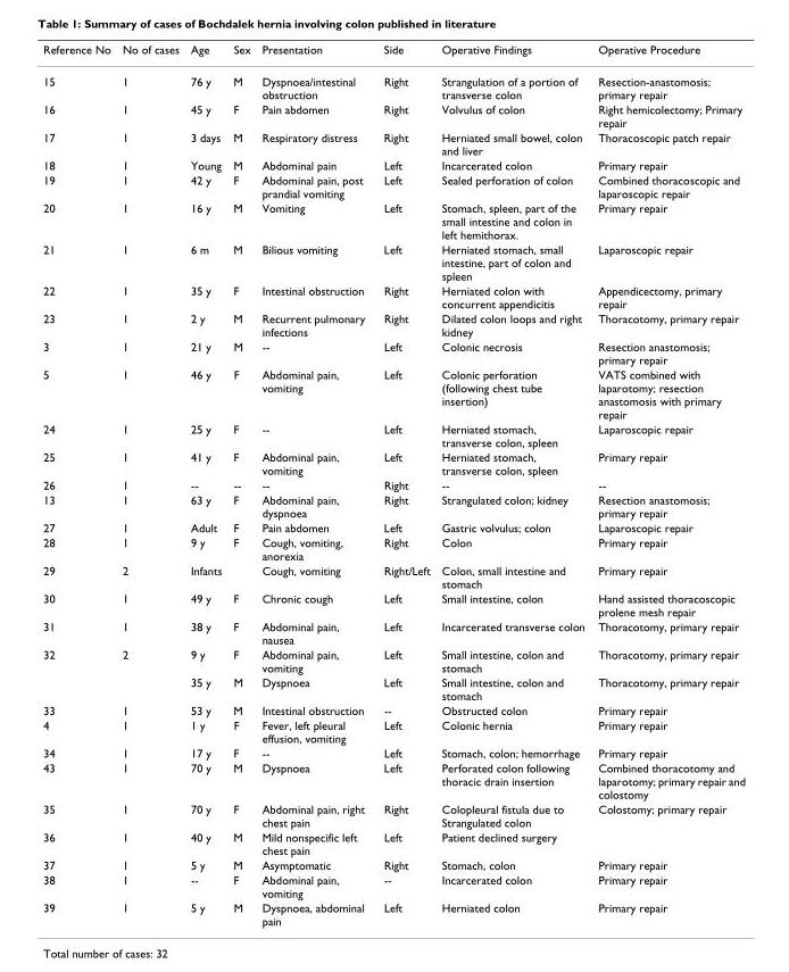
<table><thead><tr><td>Reference No</td><td>No of cases</td><td>Age</td><td>Sex</td><td>Presentation</td><td>Side</td><td>Operative Findings</td><td>Operative Procedure</td></tr></thead><tbody><tr><td>15</td><td>1</td><td>76 y</td><td>M</td><td>Dyspnoea/intestinal obstruction</td><td>Right</td><td>Strangulation of a portion of transverse colon</td><td>Resection-anastomosis; primary repair</td></tr><tr><td>16</td><td>1</td><td>45 y</td><td>F</td><td>Pain abdomen</td><td>Right</td><td>Volvulus of colon</td><td>Right hemicolectomy; Primary repair</td></tr><tr><td>17</td><td>1</td><td>3 days</td><td>M</td><td>Respiratory distress</td><td>Right</td><td>Herniated small bowel, colon and liver</td><td>Thoracoscopic patch repair</td></tr><tr><td>18</td><td>1</td><td>Young</td><td>M</td><td>Abdominal pain</td><td>Left</td><td>Incarcerated colon</td><td>Primary repair</td></tr><tr><td>19</td><td>1</td><td>42 y</td><td>F</td><td>Abdominal pain, post prandial vomiting</td><td>Left</td><td>Sealed perforation of colon</td><td>Combined thoracoscopic and laparoscopic repair</td></tr><tr><td>20</td><td>1</td><td>16 y</td><td>M</td><td>Vomiting</td><td>Left</td><td>Stomach, spleen, part of the small intestine and colon in left hemithorax.</td><td>Primary repair</td></tr><tr><td>21</td><td>1</td><td>6 m</td><td>M</td><td>Bilious vomiting</td><td>Left</td><td>Herniated stomach, small intestine, part of colon and spleen</td><td>Laparoscopic repair</td></tr><tr><td>22</td><td>1</td><td>35 y</td><td>F</td><td>Intestinal obstruction</td><td>Right</td><td>Herniated colon with concurrent appendicitis</td><td>Appendicectomy, primary repair</td></tr><tr><td>23</td><td>1</td><td>2 y</td><td>M</td><td>Recurrent pulmonary infections</td><td>Right</td><td>Dilated colon loops and right kidney</td><td>Thoracotomy, primary repair</td></tr><tr><td>3</td><td>1</td><td>21 y</td><td>M</td><td>--</td><td>Left</td><td>Colonic necrosis</td><td>Resection anastomosis; primary repair</td></tr><tr><td>5</td><td>1</td><td>46 y</td><td>F</td><td>Abdominal pain, vomiting</td><td>Left</td><td>Colonic perforation (following chest tube insertion)</td><td>VATS combined with laparotomy; resection anastomosis with primary repair</td></tr><tr><td>24</td><td>1</td><td>25 y</td><td>F</td><td>--</td><td>Left</td><td>Herniated stomach, transverse colon, spleen</td><td>Laparoscopic repair</td></tr><tr><td>25</td><td>1</td><td>41 y</td><td>F</td><td>Abdominal pain, vomiting</td><td>Left</td><td>Herniated stomach, transverse colon, spleen</td><td>Primary repair</td></tr><tr><td>26</td><td>1</td><td>--</td><td>--</td><td>--</td><td>Right</td><td>--</td><td>--</td></tr><tr><td>13</td><td>1</td><td>63 y</td><td>F</td><td>Abdominal pain, dyspnoea</td><td>Right</td><td>Strangulated colon; kidney</td><td>Resection anastomosis; primary repair</td></tr><tr><td>27</td><td>1</td><td>Adult</td><td>F</td><td>Pain abdomen</td><td>Left</td><td>Gastric volvulus; colon</td><td>Laparoscopic repair</td></tr><tr><td>28</td><td>1</td><td>9 y</td><td>F</td><td>Cough, vomiting, anorexia</td><td>Right</td><td>Colon</td><td>Primary repair</td></tr><tr><td>29</td><td>2</td><td>Infants</td><td></td><td>Cough, vomiting</td><td>Right/Left</td><td>Colon, small intestine and stomach</td><td>Primary repair</td></tr><tr><td>30</td><td>1</td><td>49 y</td><td>F</td><td>Chronic cough</td><td>Left</td><td>Small intestine, colon</td><td>Hand assisted thoracoscopic prolene mesh repair</td></tr><tr><td>31</td><td>1</td><td>38 y</td><td>F</td><td>Abdominal pain, nausea</td><td>Left</td><td>Incarcerated transverse colon</td><td>Thoracotomy, primary repair</td></tr><tr><td rowspan="2">32</td><td>2</td><td>9 y</td><td>F</td><td>Abdominal pain, vomiting</td><td>Left</td><td>Small intestine, colon and stomach</td><td>Thoracotomy, primary repair</td></tr><tr><td></td><td>35 y</td><td>M</td><td>Dyspnoea</td><td>Left</td><td>Small intestine, colon and stomach</td><td>Thoracotomy, primary repair</td></tr><tr><td>33</td><td>1</td><td>53 y</td><td>M</td><td>Intestinal obstruction</td><td>--</td><td>Obstructed colon</td><td>Primary repair</td></tr><tr><td>4</td><td>1</td><td>1 y</td><td>F</td><td>Fever, left pleural effusion, vomiting</td><td>Left</td><td>Colonic hernia</td><td>Primary repair</td></tr><tr><td>34</td><td>1</td><td>17 y</td><td>F</td><td>--</td><td>Left</td><td>Stomach, colon; hemorrhage</td><td>Primary repair</td></tr><tr><td>43</td><td>1</td><td>70 y</td><td>M</td><td>Dyspnoea</td><td>Left</td><td>Perforated colon following thoracic drain insertion</td><td>Combined thoracotomy and laparotomy; primary repair and colostomy</td></tr><tr><td>35</td><td>1</td><td>70 y</td><td>F</td><td>Abdominal pain, right chest pain</td><td>Right</td><td>Colopleural fistula due to Strangulated colon</td><td>Colostomy; primary repair</td></tr><tr><td>36</td><td>1</td><td>40 y</td><td>M</td><td>Mild nonspecific left chest pain</td><td>Left</td><td>Patient declined surgery</td><td></td></tr><tr><td>37</td><td>1</td><td>5 y</td><td>M</td><td>Asymptomatic</td><td>Right</td><td>Stomach, colon</td><td>Primary repair</td></tr><tr><td>38</td><td>1</td><td>--</td><td>F</td><td>Abdominal pain, vomiting</td><td>--</td><td>Incarcerated colon</td><td>Primary repair</td></tr><tr><td>39</td><td>1</td><td>5 y</td><td>M</td><td>Dyspnoea, abdominal pain</td><td>Left</td><td>Herniated colon</td><td>Primary repair</td></tr></tbody></table>